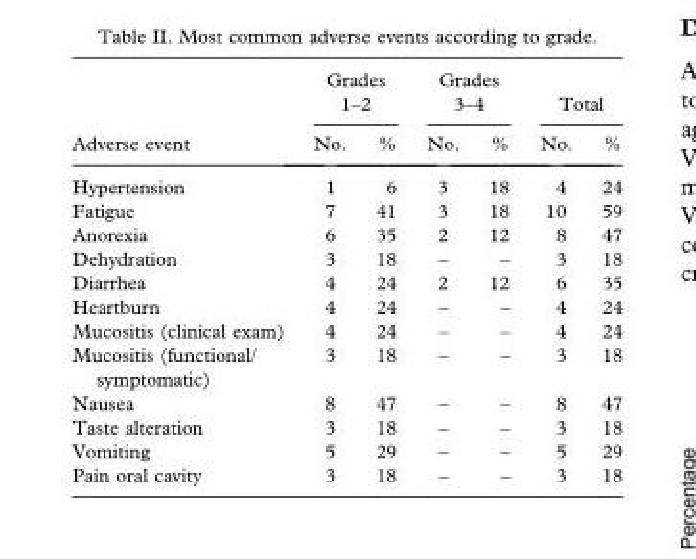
<table><thead><tr><td rowspan="2">Adverse event</td><td colspan="2">Grades 1–2</td><td colspan="2">Grades 3–4</td><td colspan="2">Total</td></tr><tr><td>No.</td><td>%</td><td>No.</td><td>%</td><td>No.</td><td>%</td></tr></thead><tbody><tr><td>Hypertension</td><td>1</td><td>6</td><td>3</td><td>18</td><td>4</td><td>24</td></tr><tr><td>Fatigue</td><td>7</td><td>41</td><td>3</td><td>18</td><td>10</td><td>59</td></tr><tr><td>Anorexia</td><td>6</td><td>35</td><td>2</td><td>12</td><td>8</td><td>47</td></tr><tr><td>Dehydration</td><td>3</td><td>18</td><td>–</td><td>–</td><td>3</td><td>18</td></tr><tr><td>Diarrhea</td><td>4</td><td>24</td><td>2</td><td>12</td><td>6</td><td>35</td></tr><tr><td>Heartburn</td><td>4</td><td>24</td><td>–</td><td>–</td><td>4</td><td>24</td></tr><tr><td>Mucositis (clinical exam)</td><td>4</td><td>24</td><td>–</td><td>–</td><td>4</td><td>24</td></tr><tr><td>Mucositis (functional/ symptomatic)</td><td>3</td><td>18</td><td>–</td><td>–</td><td>3</td><td>18</td></tr><tr><td>Nausea</td><td>8</td><td>47</td><td>–</td><td>–</td><td>8</td><td>47</td></tr><tr><td>Taste alteration</td><td>3</td><td>18</td><td>–</td><td>–</td><td>3</td><td>18</td></tr><tr><td>Vomiting</td><td>5</td><td>29</td><td>–</td><td>–</td><td>5</td><td>29</td></tr><tr><td>Pain oral cavity</td><td>3</td><td>18</td><td>–</td><td>–</td><td>3</td><td>18</td></tr></tbody></table>